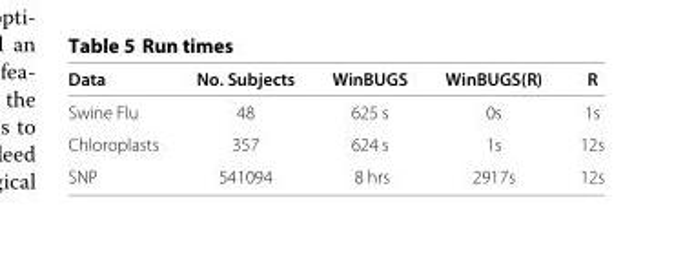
<table><thead><tr><td>Data</td><td>No. Subjects</td><td>WinBUGS</td><td>WinBUGS(R)</td><td>R</td></tr></thead><tbody><tr><td>Swine Flu</td><td>48</td><td>625 s</td><td>0s</td><td>1s</td></tr><tr><td>Chloroplasts</td><td>357</td><td>624 s</td><td>1s</td><td>12s</td></tr><tr><td>SNP</td><td>541094</td><td>8 hrs</td><td>2917s</td><td>12s</td></tr></tbody></table>